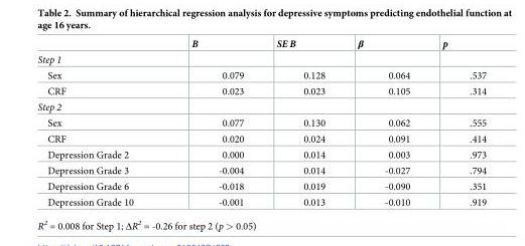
<table><thead><tr><td></td><td>B</td><td>SE B</td><td>β</td><td>p</td></tr></thead><tbody><tr><td colspan="5">Step 1</td></tr><tr><td>Sex</td><td>0.079</td><td>0.128</td><td>0.064</td><td>.537</td></tr><tr><td>CRF</td><td>0.023</td><td>0.023</td><td>0.105</td><td>.314</td></tr><tr><td colspan="5">Step 2</td></tr><tr><td>Sex</td><td>0.077</td><td>0.130</td><td>0.062</td><td>.555</td></tr><tr><td>CRF</td><td>0.020</td><td>0.024</td><td>0.091</td><td>.414</td></tr><tr><td>Depression Grade 2</td><td>0.000</td><td>0.014</td><td>0.003</td><td>.973</td></tr><tr><td>Depression Grade 3</td><td>-0.004</td><td>0.014</td><td>-0.027</td><td>.794</td></tr><tr><td>Depression Grade 6</td><td>-0.018</td><td>0.019</td><td>-0.090</td><td>.351</td></tr><tr><td>Depression Grade 10</td><td>-0.001</td><td>0.013</td><td>-0.010</td><td>.919</td></tr></tbody></table>